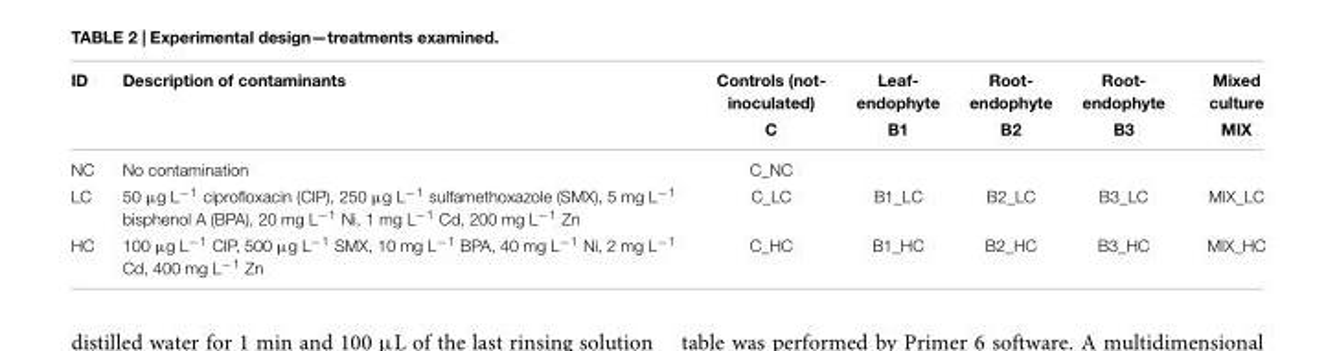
<table><thead><tr><td rowspan="2">ID</td><td rowspan="2">Description of contaminants</td><td rowspan="2">Controls (not- inoculated) C</td><td rowspan="2">Leaf- endophyte B1</td><td rowspan="2">Root- endophyte B2</td><td rowspan="2">Root- endophyte B3</td><td rowspan="2">Mixed culture MIX</td></tr><tr></tr></thead><tbody><tr><td>NC</td><td>No contamination</td><td>C_NC</td><td></td><td></td><td></td><td></td></tr><tr><td>LC</td><td>50 µg L<sup>−1</sup> ciprofloxacin (CIP), 250 µg L<sup>−1</sup> sulfamethoxazole (SMX), 5 mg L<sup>−1</sup> bisphenol A (BPA), 20 mg L<sup>−1</sup> Ni, 1 mg L<sup>−1</sup> Cd, 200 mg L<sup>−1</sup> Zn</td><td>C_LC</td><td>B1_LC</td><td>B2_LC</td><td>B3_LC</td><td>MIX_LC</td></tr><tr><td>HC</td><td>100 µg L<sup>−1</sup> CIP, 500 µg L<sup>−1</sup> SMX, 10 mg L<sup>−1</sup> BPA, 40 mg L<sup>−1</sup> Ni, 2 mg L<sup>−1</sup> Cd, 400 mg L<sup>−1</sup> Zn</td><td>C_HC</td><td>B1_HC</td><td>B2_HC</td><td>B3_HC</td><td>MIX_HC</td></tr></tbody></table>